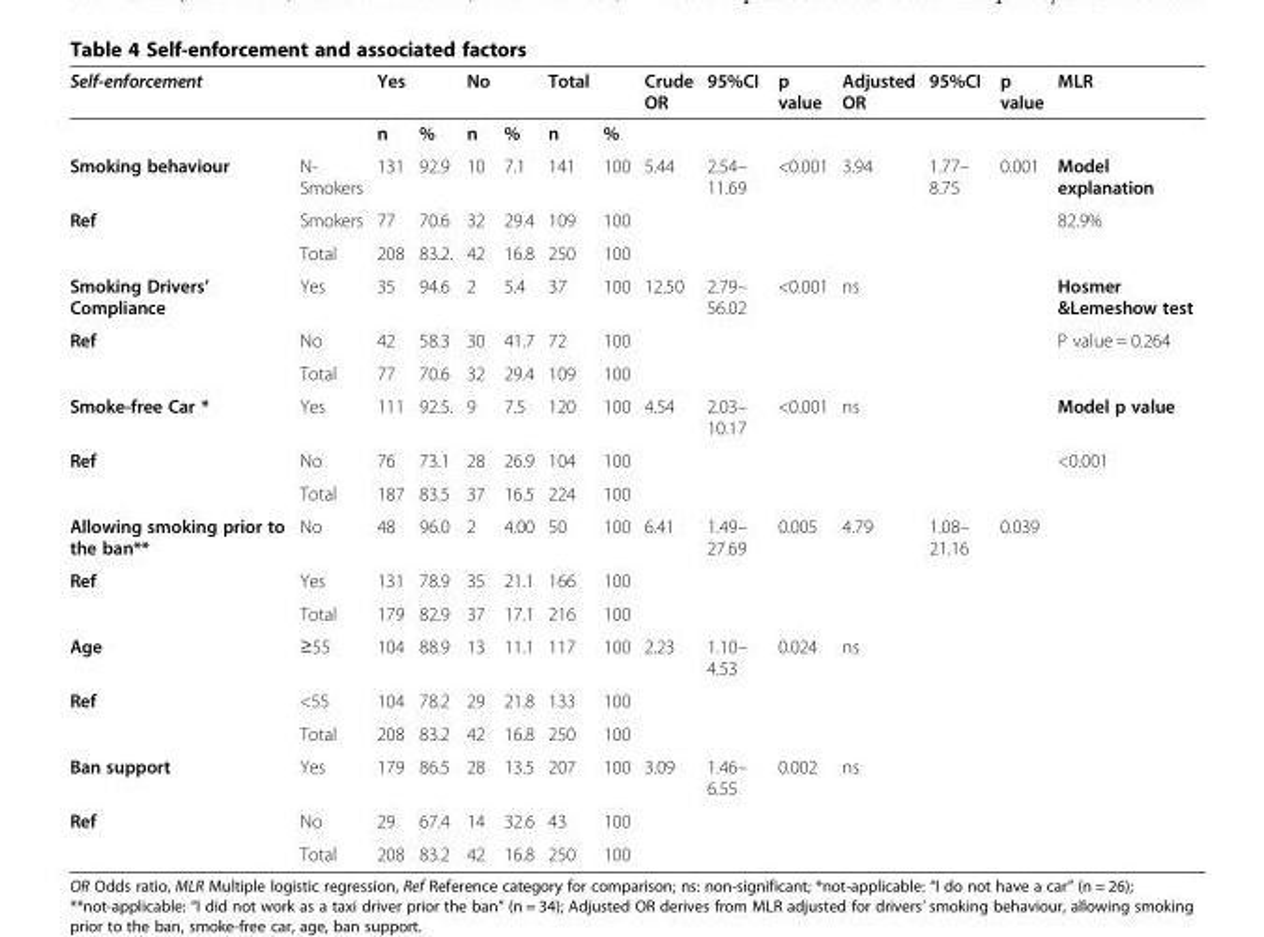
<table><thead><tr><td>Self-enforcement</td><td></td><td>Yes</td><td></td><td>No</td><td></td><td>Total</td><td></td><td>Crude OR</td><td>95%CI</td><td>p value</td><td>Adjusted OR</td><td>95%CI</td><td>p value</td><td>MLR</td></tr></thead><tbody><tr><td></td><td></td><td>n</td><td>%</td><td>n</td><td>%</td><td>n</td><td>%</td><td></td><td></td><td></td><td></td><td></td><td></td><td></td></tr><tr><td>Smoking behaviour</td><td>N- Smokers</td><td>131</td><td>92.9</td><td>10</td><td>7.1</td><td>141</td><td>100</td><td>5.44</td><td>2.54– 11.69</td><td>&lt;0.001</td><td>3.94</td><td>1.77– 8.75</td><td>0.001</td><td>Model explanation</td></tr><tr><td rowspan="2">Ref</td><td>Smokers</td><td>77</td><td>70.6</td><td>32</td><td>29.4</td><td>109</td><td>100</td><td></td><td></td><td></td><td></td><td></td><td></td><td>82.9%</td></tr><tr><td>Total</td><td>208</td><td>83.2.</td><td>42</td><td>16.8</td><td>250</td><td>100</td><td></td><td></td><td></td><td></td><td></td><td></td><td></td></tr><tr><td>Smoking Drivers’ Compliance</td><td>Yes</td><td>35</td><td>94.6</td><td>2</td><td>5.4</td><td>37</td><td>100</td><td>12.50</td><td>2.79– 56.02</td><td>&lt;0.001</td><td>ns</td><td></td><td></td><td>Hosmer &amp;Lemeshow test</td></tr><tr><td rowspan="2">Ref</td><td>No</td><td>42</td><td>58.3</td><td>30</td><td>41.7</td><td>72</td><td>100</td><td></td><td></td><td></td><td></td><td></td><td></td><td>P value = 0.264</td></tr><tr><td>Total</td><td>77</td><td>70.6</td><td>32</td><td>29.4</td><td>109</td><td>100</td><td></td><td></td><td></td><td></td><td></td><td></td><td></td></tr><tr><td>Smoke-free Car *</td><td>Yes</td><td>111</td><td>92.5.</td><td>9</td><td>7.5</td><td>120</td><td>100</td><td>4.54</td><td>2.03– 10.17</td><td>&lt;0.001</td><td>ns</td><td></td><td></td><td>Model p value</td></tr><tr><td rowspan="2">Ref</td><td>No</td><td>76</td><td>73.1</td><td>28</td><td>26.9</td><td>104</td><td>100</td><td></td><td></td><td></td><td></td><td></td><td></td><td>&lt;0.001</td></tr><tr><td>Total</td><td>187</td><td>83.5</td><td>37</td><td>16.5</td><td>224</td><td>100</td><td></td><td></td><td></td><td></td><td></td><td></td><td></td></tr><tr><td>Allowing smoking prior to the ban**</td><td>No</td><td>48</td><td>96.0</td><td>2</td><td>4.00</td><td>50</td><td>100</td><td>6.41</td><td>1.49– 27.69</td><td>0.005</td><td>4.79</td><td>1.08– 21.16</td><td>0.039</td><td></td></tr><tr><td rowspan="2">Ref</td><td>Yes</td><td>131</td><td>78.9</td><td>35</td><td>21.1</td><td>166</td><td>100</td><td></td><td></td><td></td><td></td><td></td><td></td><td></td></tr><tr><td>Total</td><td>179</td><td>82.9</td><td>37</td><td>17.1</td><td>216</td><td>100</td><td></td><td></td><td></td><td></td><td></td><td></td><td></td></tr><tr><td>Age</td><td>≥55</td><td>104</td><td>88.9</td><td>13</td><td>11.1</td><td>117</td><td>100</td><td>2.23</td><td>1.10– 4.53</td><td>0.024</td><td>ns</td><td></td><td></td><td></td></tr><tr><td rowspan="2">Ref</td><td>&lt;55</td><td>104</td><td>78.2</td><td>29</td><td>21.8</td><td>133</td><td>100</td><td></td><td></td><td></td><td></td><td></td><td></td><td></td></tr><tr><td>Total</td><td>208</td><td>83.2</td><td>42</td><td>16.8</td><td>250</td><td>100</td><td></td><td></td><td></td><td></td><td></td><td></td><td></td></tr><tr><td>Ban support</td><td>Yes</td><td>179</td><td>86.5</td><td>28</td><td>13.5</td><td>207</td><td>100</td><td>3.09</td><td>1.46– 6.55</td><td>0.002</td><td>ns</td><td></td><td></td><td></td></tr><tr><td rowspan="2">Ref</td><td>No</td><td>29</td><td>67.4</td><td>14</td><td>32.6</td><td>43</td><td>100</td><td></td><td></td><td></td><td></td><td></td><td></td><td></td></tr><tr><td>Total</td><td>208</td><td>83.2</td><td>42</td><td>16.8</td><td>250</td><td>100</td><td></td><td></td><td></td><td></td><td></td><td></td><td></td></tr></tbody></table>